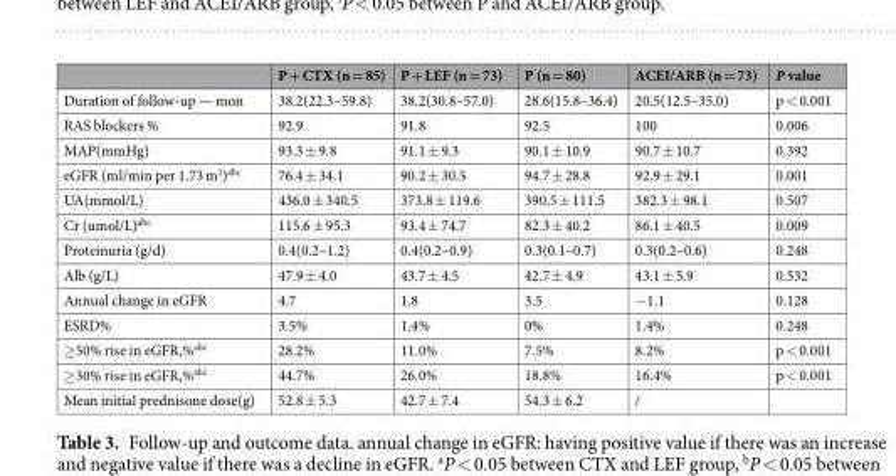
<table><thead><tr><td></td><td>P + CTX (n = 85)</td><td>P + LEF (n = 73)</td><td>P (n = 80)</td><td>ACEI/ARB (n = 73)</td><td>P value</td></tr></thead><tbody><tr><td>Duration of follow-up — mon</td><td>38.2(22.3–59.8)</td><td>38.2(30.8–57.0)</td><td>28.6(15.8–36.4)</td><td>20.5(12.5–35.0)</td><td>p &lt; 0.001</td></tr><tr><td>RAS blockers %</td><td>92.9</td><td>91.8</td><td>92.5</td><td>100</td><td>0.006</td></tr><tr><td>MAP(mmHg)</td><td>93.3 ± 9.8</td><td>91.1 ± 9.3</td><td>90.1 ± 10.9</td><td>90.7 ± 10.7</td><td>0.392</td></tr><tr><td>eGFR (ml/min per 1.73 m<sup>2</sup>)<sup>abc</sup></td><td>76.4 ± 34.1</td><td>90.2 ± 30.5</td><td>94.7 ± 28.8</td><td>92.9 ± 29.1</td><td>0.001</td></tr><tr><td>UA(mmol/L)</td><td>436.0 ± 340.5</td><td>373.8 ± 119.6</td><td>390.5 ± 111.5</td><td>382.3 ± 98.1</td><td>0.507</td></tr><tr><td>Cr (umol/L)<sup>abc</sup></td><td>115.6 ± 95.3</td><td>93.4 ± 74.7</td><td>82.3 ± 40.2</td><td>86.1 ± 40.5</td><td>0.009</td></tr><tr><td>Proteinuria (g/d)</td><td>0.4(0.2–1.2)</td><td>0.4(0.2–0.9)</td><td>0.3(0.1–0.7)</td><td>0.3(0.2–0.6)</td><td>0.248</td></tr><tr><td>Alb (g/L)</td><td>47.9 ± 4.0</td><td>43.7 ± 4.5</td><td>42.7 ± 4.9</td><td>43.1 ± 5.9</td><td>0.532</td></tr><tr><td>Annual change in eGFR</td><td>4.7</td><td>1.8</td><td>3.5</td><td>−1.1</td><td>0.128</td></tr><tr><td>ESRD%</td><td>3.5%</td><td>1.4%</td><td>0%</td><td>1.4%</td><td>0.248</td></tr><tr><td>≥50% rise in eGFR,%<sup>abc</sup></td><td>28.2%</td><td>11.0%</td><td>7.5%</td><td>8.2%</td><td>p &lt; 0.001</td></tr><tr><td>≥30% rise in eGFR,%<sup>abc</sup></td><td>44.7%</td><td>26.0%</td><td>18.8%</td><td>16.4%</td><td>p &lt; 0.001</td></tr><tr><td>Mean initial prednisone dose(g)</td><td>52.8 ± 5.3</td><td>42.7 ± 7.4</td><td>54.3 ± 6.2</td><td>/</td><td></td></tr></tbody></table>